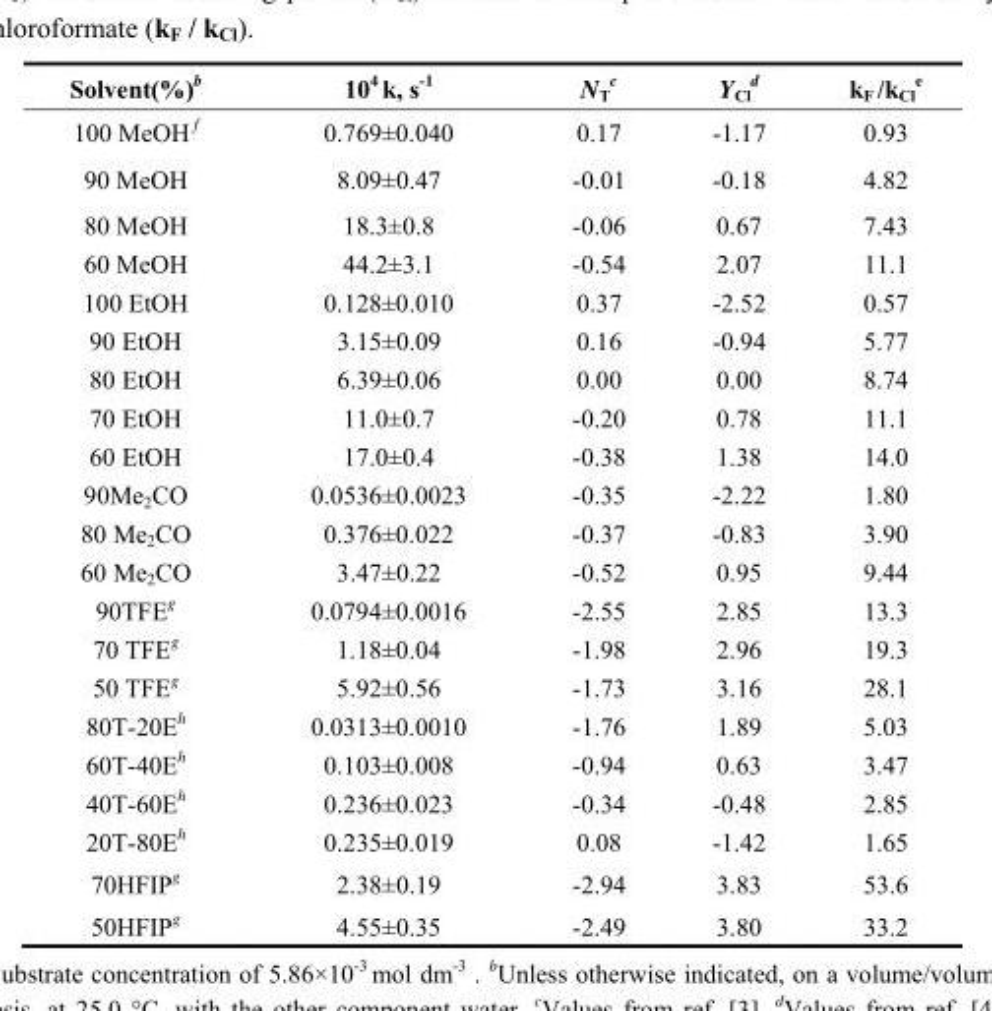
<table><thead><tr><td>Solvent(%)b</td><td>10<sup>4</sup> k, s<sup>-1</sup></td><td>N<sub>T</sub> c</td><td>Y<sub>Cl</sub> d</td><td>k<sub>F</sub> /k<sub>Cl</sub> <sup>e</sup></td></tr></thead><tbody><tr><td>100 MeOH f</td><td>0.769±0.040</td><td>0.17</td><td>-1.17</td><td>0.93</td></tr><tr><td>90 MeOH</td><td>8.09±0.47</td><td>-0.01</td><td>-0.18</td><td>4.82</td></tr><tr><td>80 MeOH</td><td>18.3±0.8</td><td>-0.06</td><td>0.67</td><td>7.43</td></tr><tr><td>60 MeOH</td><td>44.2±3.1</td><td>-0.54</td><td>2.07</td><td>11.1</td></tr><tr><td>100 EtOH</td><td>0.128±0.010</td><td>0.37</td><td>-2.52</td><td>0.57</td></tr><tr><td>90 EtOH</td><td>3.15±0.09</td><td>0.16</td><td>-0.94</td><td>5.77</td></tr><tr><td>80 EtOH</td><td>6.39±0.06</td><td>0.00</td><td>0.00</td><td>8.74</td></tr><tr><td>70 EtOH</td><td>11.0±0.7</td><td>-0.20</td><td>0.78</td><td>11.1</td></tr><tr><td>60 EtOH</td><td>17.0±0.4</td><td>-0.38</td><td>1.38</td><td>14.0</td></tr><tr><td>90Me<sub>2</sub>CO</td><td>0.0536±0.0023</td><td>-0.35</td><td>-2.22</td><td>1.80</td></tr><tr><td>80 Me<sub>2</sub>CO</td><td>0.376±0.022</td><td>-0.37</td><td>-0.83</td><td>3.90</td></tr><tr><td>60 Me<sub>2</sub>CO</td><td>3.47±0.22</td><td>-0.52</td><td>0.95</td><td>9.44</td></tr><tr><td>90TFEg</td><td>0.0794±0.0016</td><td>-2.55</td><td>2.85</td><td>13.3</td></tr><tr><td>70 TFEg</td><td>1.18±0.04</td><td>-1.98</td><td>2.96</td><td>19.3</td></tr><tr><td>50 TFEg</td><td>5.92±0.56</td><td>-1.73</td><td>3.16</td><td>28.1</td></tr><tr><td>80T-20Eh</td><td>0.0313±0.0010</td><td>-1.76</td><td>1.89</td><td>5.03</td></tr><tr><td>60T-40Eh</td><td>0.103±0.008</td><td>-0.94</td><td>0.63</td><td>3.47</td></tr><tr><td>40T-60Eh</td><td>0.236±0.023</td><td>-0.34</td><td>-0.48</td><td>2.85</td></tr><tr><td>20T-80Eh</td><td>0.235±0.019</td><td>0.08</td><td>-1.42</td><td>1.65</td></tr><tr><td>70HFIPg</td><td>2.38±0.19</td><td>-2.94</td><td>3.83</td><td>53.6</td></tr><tr><td>50HFIPg</td><td>4.55±0.35</td><td>-2.49</td><td>3.80</td><td>33.2</td></tr></tbody></table>